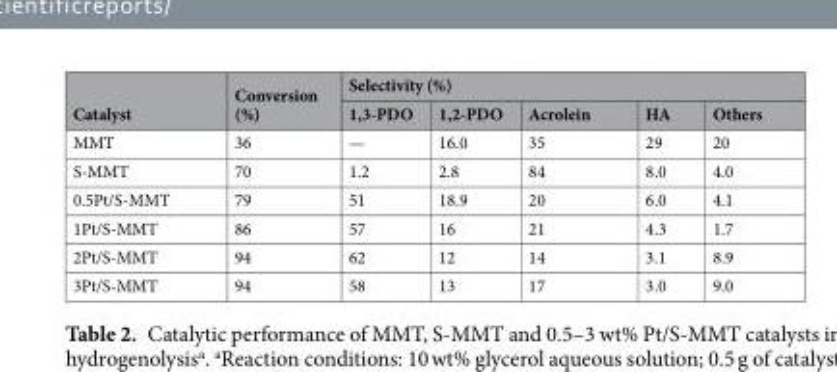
<table><thead><tr><td rowspan="2">Catalyst</td><td rowspan="2">Conversion (%)</td><td colspan="5">Selectivity (%)</td></tr><tr><td>1,3-PDO</td><td>1,2-PDO</td><td>Acrolein</td><td>HA</td><td>Others</td></tr></thead><tbody><tr><td>MMT</td><td>36</td><td>—</td><td>16.0</td><td>35</td><td>29</td><td>20</td></tr><tr><td>S-MMT</td><td>70</td><td>1.2</td><td>2.8</td><td>84</td><td>8.0</td><td>4.0</td></tr><tr><td>0.5Pt/S-MMT</td><td>79</td><td>51</td><td>18.9</td><td>20</td><td>6.0</td><td>4.1</td></tr><tr><td>1Pt/S-MMT</td><td>86</td><td>57</td><td>16</td><td>21</td><td>4.3</td><td>1.7</td></tr><tr><td>2Pt/S-MMT</td><td>94</td><td>62</td><td>12</td><td>14</td><td>3.1</td><td>8.9</td></tr><tr><td>3Pt/S-MMT</td><td>94</td><td>58</td><td>13</td><td>17</td><td>3.0</td><td>9.0</td></tr></tbody></table>